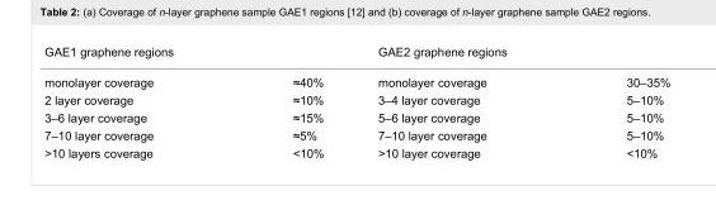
<table><tbody><tr><td colspan="2">GAE1 graphene regions</td><td colspan="2">GAE2 graphene regions</td></tr><tr><td>monolayer coverage</td><td>≈40%</td><td>monolayer coverage</td><td>30–35%</td></tr><tr><td>2 layer coverage</td><td>≈10%</td><td>3–4 layer coverage</td><td>5–10%</td></tr><tr><td>3–6 layer coverage</td><td>≈15%</td><td>5–6 layer coverage</td><td>5–10%</td></tr><tr><td>7–10 layer coverage</td><td>≈5%</td><td>7–10 layer coverage</td><td>5–10%</td></tr><tr><td>&gt;10 layers coverage</td><td>&lt;10%</td><td>&gt;10 layer coverage</td><td>&lt;10%</td></tr></tbody></table>